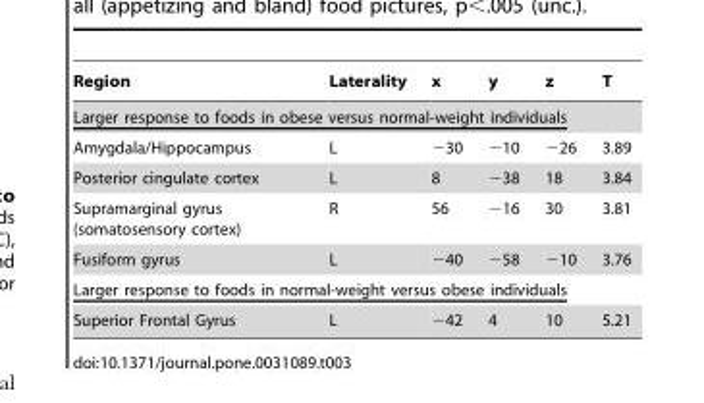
<table><thead><tr><td>Region</td><td>Laterality</td><td>x</td><td>y</td><td>z</td><td>T</td></tr></thead><tbody><tr><td colspan="6">Larger response to foods in obese versus normal-weight individuals</td></tr><tr><td>Amygdala/Hippocampus</td><td>L</td><td>−30</td><td>−10</td><td>−26</td><td>3.89</td></tr><tr><td>Posterior cingulate cortex</td><td>L</td><td>8</td><td>−38</td><td>18</td><td>3.84</td></tr><tr><td>Supramarginal gyrus (somatosensory cortex)</td><td>R</td><td>56</td><td>−16</td><td>30</td><td>3.81</td></tr><tr><td>Fusiform gyrus</td><td>L</td><td>−40</td><td>−58</td><td>−10</td><td>3.76</td></tr><tr><td colspan="6">Larger response to foods in normal-weight versus obese individuals</td></tr><tr><td>Superior Frontal Gyrus</td><td>L</td><td>−42</td><td>4</td><td>10</td><td>5.21</td></tr></tbody></table>